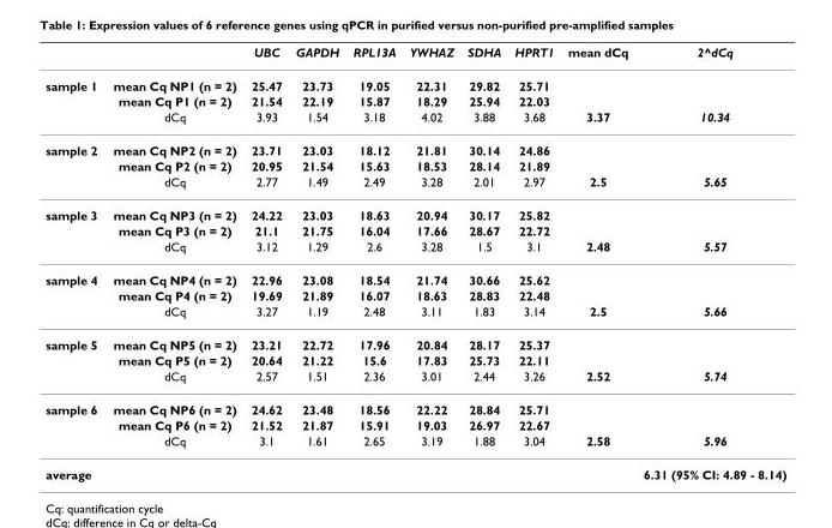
<table><thead><tr><td></td><td></td><td>UBC</td><td>GAPDH</td><td>RPL13A</td><td>YWHAZ</td><td>SDHA</td><td>HPRT1</td><td>mean dCq</td><td>2^dCq</td></tr></thead><tbody><tr><td rowspan="3">sample 1</td><td>mean Cq NP1 (n = 2)</td><td>25.47</td><td>23.73</td><td>19.05</td><td>22.31</td><td>29.82</td><td>25.71</td><td></td><td></td></tr><tr><td>mean Cq P1 (n = 2)</td><td>21.54</td><td>22.19</td><td>15.87</td><td>18.29</td><td>25.94</td><td>22.03</td><td></td><td></td></tr><tr><td>dCq</td><td>3.93</td><td>1.54</td><td>3.18</td><td>4.02</td><td>3.88</td><td>3.68</td><td>3.37</td><td>10.34</td></tr><tr><td rowspan="3">sample 2</td><td>mean Cq NP2 (n = 2)</td><td>23.71</td><td>23.03</td><td>18.12</td><td>21.81</td><td>30.14</td><td>24.86</td><td></td><td></td></tr><tr><td>mean Cq P2 (n = 2)</td><td>20.95</td><td>21.54</td><td>15.63</td><td>18.53</td><td>28.14</td><td>21.89</td><td></td><td></td></tr><tr><td>dCq</td><td>2.77</td><td>1.49</td><td>2.49</td><td>3.28</td><td>2.01</td><td>2.97</td><td>2.5</td><td>5.65</td></tr><tr><td rowspan="3">sample 3</td><td>mean Cq NP3 (n = 2)</td><td>24.22</td><td>23.03</td><td>18.63</td><td>20.94</td><td>30.17</td><td>25.82</td><td></td><td></td></tr><tr><td>mean Cq P3 (n = 2)</td><td>21.1</td><td>21.75</td><td>16.04</td><td>17.66</td><td>28.67</td><td>22.72</td><td></td><td></td></tr><tr><td>dCq</td><td>3.12</td><td>1.29</td><td>2.6</td><td>3.28</td><td>1.5</td><td>3.1</td><td>2.48</td><td>5.57</td></tr><tr><td rowspan="3">sample 4</td><td>mean Cq NP4 (n = 2)</td><td>22.96</td><td>23.08</td><td>18.54</td><td>21.74</td><td>30.66</td><td>25.62</td><td></td><td></td></tr><tr><td>mean Cq P4 (n = 2)</td><td>19.69</td><td>21.89</td><td>16.07</td><td>18.63</td><td>28.83</td><td>22.48</td><td></td><td></td></tr><tr><td>dCq</td><td>3.27</td><td>1.19</td><td>2.48</td><td>3.11</td><td>1.83</td><td>3.14</td><td>2.5</td><td>5.66</td></tr><tr><td rowspan="3">sample 5</td><td>mean Cq NP5 (n = 2)</td><td>23.21</td><td>22.72</td><td>17.96</td><td>20.84</td><td>28.17</td><td>25.37</td><td></td><td></td></tr><tr><td>mean Cq P5 (n = 2)</td><td>20.64</td><td>21.22</td><td>15.6</td><td>17.83</td><td>25.73</td><td>22.11</td><td></td><td></td></tr><tr><td>dCq</td><td>2.57</td><td>1.51</td><td>2.36</td><td>3.01</td><td>2.44</td><td>3.26</td><td>2.52</td><td>5.74</td></tr><tr><td rowspan="3">sample 6</td><td>mean Cq NP6 (n = 2)</td><td>24.62</td><td>23.48</td><td>18.56</td><td>22.22</td><td>28.84</td><td>25.71</td><td></td><td></td></tr><tr><td>mean Cq P6 (n = 2)</td><td>21.52</td><td>21.87</td><td>15.91</td><td>19.03</td><td>26.97</td><td>22.67</td><td></td><td></td></tr><tr><td>dCq</td><td>3.1</td><td>1.61</td><td>2.65</td><td>3.19</td><td>1.88</td><td>3.04</td><td>2.58</td><td>5.96</td></tr><tr><td>average</td><td></td><td></td><td></td><td></td><td></td><td></td><td></td><td></td><td>6.31 (95% CI: 4.89 - 8.14)</td></tr></tbody></table>